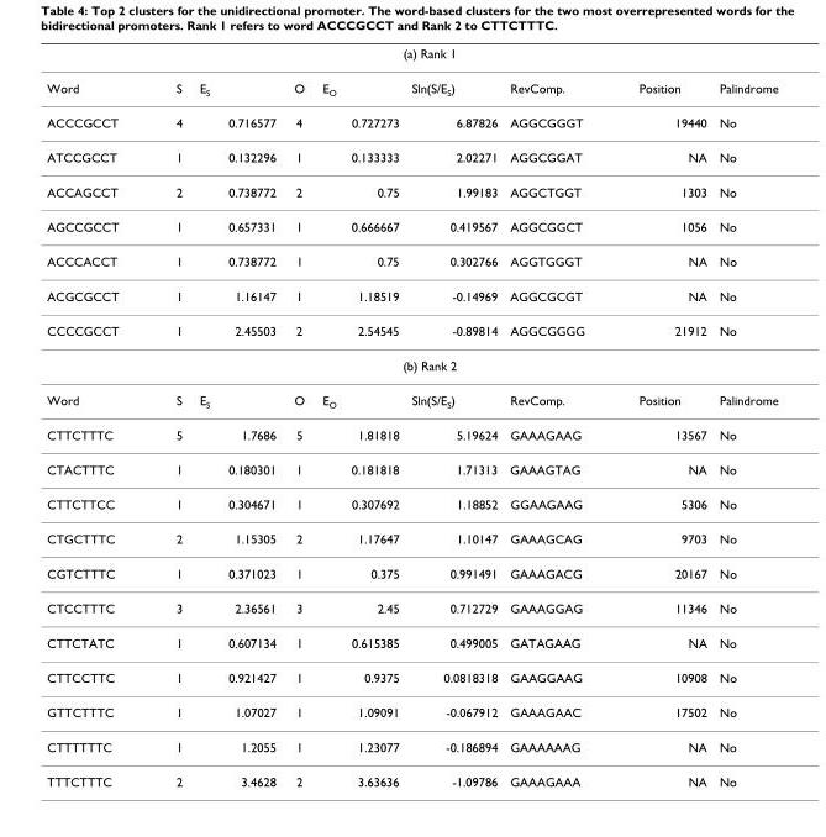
<table><thead><tr><td colspan="9">(a) Rank 1</td></tr><tr><td>Word</td><td>S</td><td>ES</td><td>O</td><td>EO</td><td>Sln(S/ES)</td><td>RevComp.</td><td>Position</td><td>Palindrome</td></tr></thead><tbody><tr><td>ACCCGCCT</td><td>4</td><td>0.716577</td><td>4</td><td>0.727273</td><td>6.87826</td><td>AGGCGGGT</td><td>19440</td><td>No</td></tr><tr><td>ATCCGCCT</td><td>1</td><td>0.132296</td><td>1</td><td>0.133333</td><td>2.02271</td><td>AGGCGGAT</td><td>NA</td><td>No</td></tr><tr><td>ACCAGCCT</td><td>2</td><td>0.738772</td><td>2</td><td>0.75</td><td>1.99183</td><td>AGGCTGGT</td><td>1303</td><td>No</td></tr><tr><td>AGCCGCCT</td><td>1</td><td>0.657331</td><td>1</td><td>0.666667</td><td>0.419567</td><td>AGGCGGCT</td><td>1056</td><td>No</td></tr><tr><td>ACCCACCT</td><td>1</td><td>0.738772</td><td>1</td><td>0.75</td><td>0.302766</td><td>AGGTGGGT</td><td>NA</td><td>No</td></tr><tr><td>ACGCGCCT</td><td>1</td><td>1.16147</td><td>1</td><td>1.18519</td><td>-0.14969</td><td>AGGCGCGT</td><td>NA</td><td>No</td></tr><tr><td>CCCCGCCT</td><td>1</td><td>2.45503</td><td>2</td><td>2.54545</td><td>-0.89814</td><td>AGGCGGGG</td><td>21912</td><td>No</td></tr><tr><td colspan="9">(b) Rank 2</td></tr><tr><td>Word</td><td>S</td><td>ES</td><td>O</td><td>EO</td><td>Sln(S/ES)</td><td>RevComp.</td><td>Position</td><td>Palindrome</td></tr><tr><td>CTTCTTTC</td><td>5</td><td>1.7686</td><td>5</td><td>1.81818</td><td>5.19624</td><td>GAAAGAAG</td><td>13567</td><td>No</td></tr><tr><td>CTACTTTC</td><td>1</td><td>0.180301</td><td>1</td><td>0.181818</td><td>1.71313</td><td>GAAAGTAG</td><td>NA</td><td>No</td></tr><tr><td>CTTCTTCC</td><td>1</td><td>0.304671</td><td>1</td><td>0.307692</td><td>1.18852</td><td>GGAAGAAG</td><td>5306</td><td>No</td></tr><tr><td>CTGCTTTC</td><td>2</td><td>1.15305</td><td>2</td><td>1.17647</td><td>1.10147</td><td>GAAAGCAG</td><td>9703</td><td>No</td></tr><tr><td>CGTCTTTC</td><td>1</td><td>0.371023</td><td>1</td><td>0.375</td><td>0.991491</td><td>GAAAGACG</td><td>20167</td><td>No</td></tr><tr><td>CTCCTTTC</td><td>3</td><td>2.36561</td><td>3</td><td>2.45</td><td>0.712729</td><td>GAAAGGAG</td><td>11346</td><td>No</td></tr><tr><td>CTTCTATC</td><td>1</td><td>0.607134</td><td>1</td><td>0.615385</td><td>0.499005</td><td>GATAGAAG</td><td>NA</td><td>No</td></tr><tr><td>CTTCCTTC</td><td>1</td><td>0.921427</td><td>1</td><td>0.9375</td><td>0.0818318</td><td>GAAGGAAG</td><td>10908</td><td>No</td></tr><tr><td>GTTCTTTC</td><td>1</td><td>1.07027</td><td>1</td><td>1.09091</td><td>-0.067912</td><td>GAAAGAAC</td><td>17502</td><td>No</td></tr><tr><td>CTTTTTTC</td><td>1</td><td>1.2055</td><td>1</td><td>1.23077</td><td>-0.186894</td><td>GAAAAAAG</td><td>NA</td><td>No</td></tr><tr><td>TTTCTTTC</td><td>2</td><td>3.4628</td><td>2</td><td>3.63636</td><td>-1.09786</td><td>GAAAGAAA</td><td>NA</td><td>No</td></tr></tbody></table>